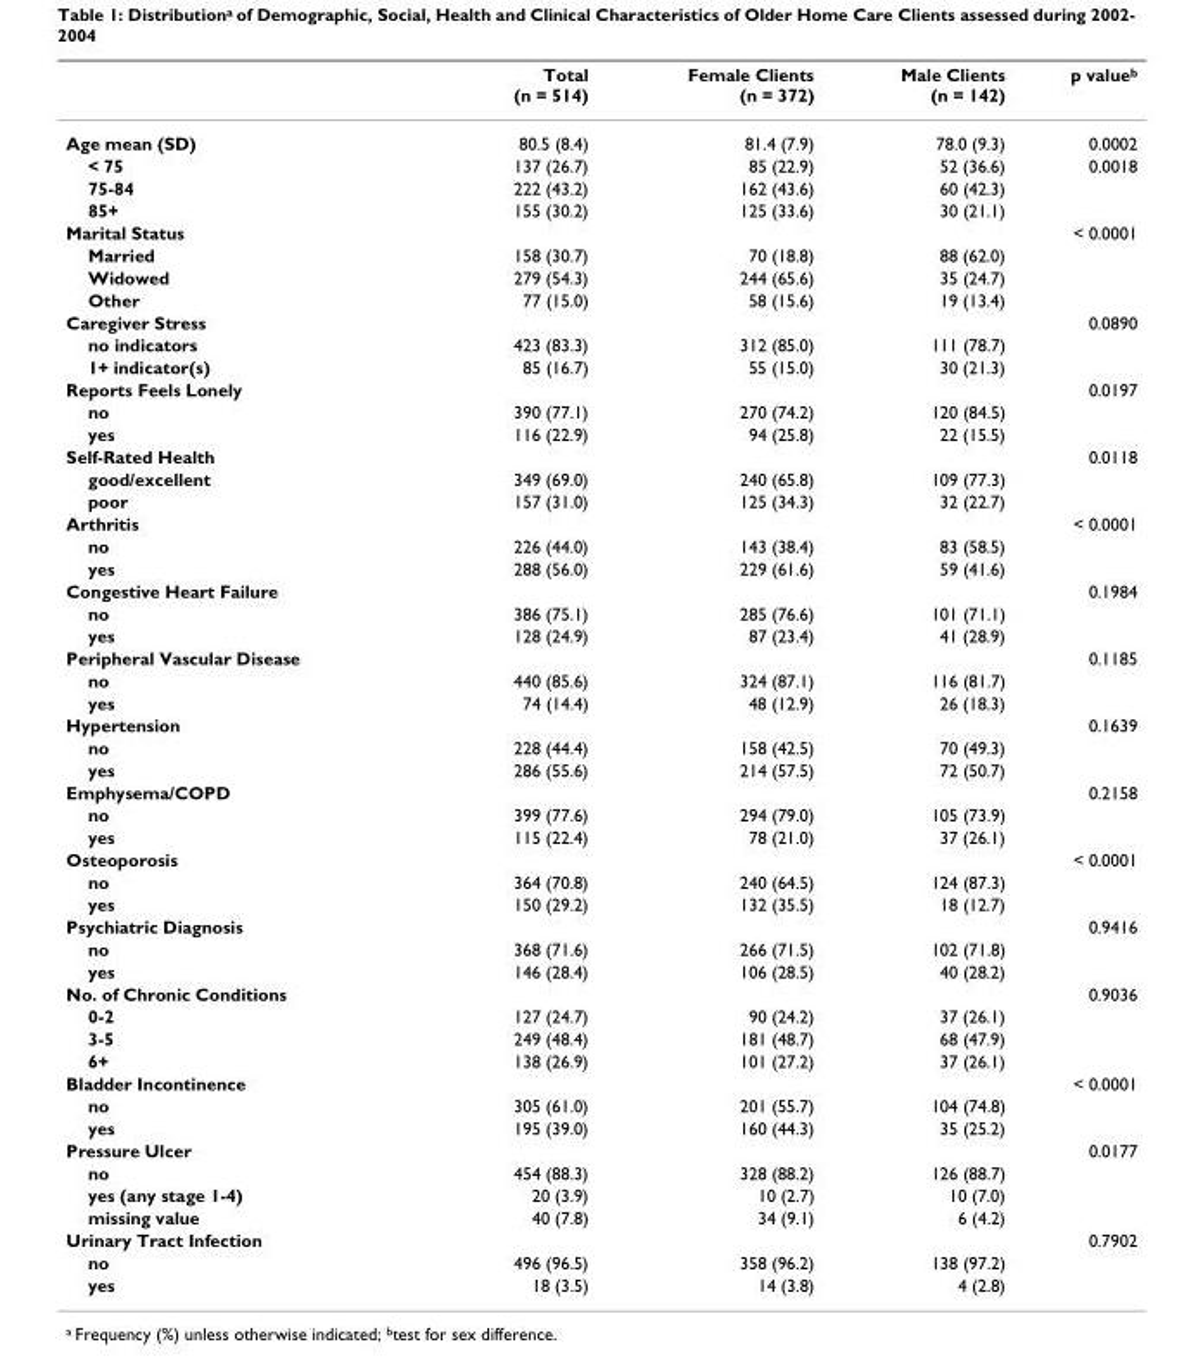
<table><thead><tr><td></td><td>Total (n = 514)</td><td>Female Clients (n = 372)</td><td>Male Clients (n = 142)</td><td>p value<sup>b</sup></td></tr></thead><tbody><tr><td>Age mean (SD)</td><td>80.5 (8.4)</td><td>81.4 (7.9)</td><td>78.0 (9.3)</td><td>0.0002</td></tr><tr><td>&lt; 75</td><td>137 (26.7)</td><td>85 (22.9)</td><td>52 (36.6)</td><td>0.0018</td></tr><tr><td>75-84</td><td>222 (43.2)</td><td>162 (43.6)</td><td>60 (42.3)</td><td></td></tr><tr><td>85+</td><td>155 (30.2)</td><td>125 (33.6)</td><td>30 (21.1)</td><td></td></tr><tr><td>Marital Status</td><td></td><td></td><td></td><td>&lt; 0.0001</td></tr><tr><td>Married</td><td>158 (30.7)</td><td>70 (18.8)</td><td>88 (62.0)</td><td></td></tr><tr><td>Widowed</td><td>279 (54.3)</td><td>244 (65.6)</td><td>35 (24.7)</td><td></td></tr><tr><td>Other</td><td>77 (15.0)</td><td>58 (15.6)</td><td>19 (13.4)</td><td></td></tr><tr><td>Caregiver Stress</td><td></td><td></td><td></td><td>0.0890</td></tr><tr><td>no indicators</td><td>423 (83.3)</td><td>312 (85.0)</td><td>111 (78.7)</td><td></td></tr><tr><td>1+ indicator(s)</td><td>85 (16.7)</td><td>55 (15.0)</td><td>30 (21.3)</td><td></td></tr><tr><td>Reports Feels Lonely</td><td></td><td></td><td></td><td>0.0197</td></tr><tr><td>no</td><td>390 (77.1)</td><td>270 (74.2)</td><td>120 (84.5)</td><td></td></tr><tr><td>yes</td><td>116 (22.9)</td><td>94 (25.8)</td><td>22 (15.5)</td><td></td></tr><tr><td>Self-Rated Health</td><td></td><td></td><td></td><td>0.0118</td></tr><tr><td>good/excellent</td><td>349 (69.0)</td><td>240 (65.8)</td><td>109 (77.3)</td><td></td></tr><tr><td>poor</td><td>157 (31.0)</td><td>125 (34.3)</td><td>32 (22.7)</td><td></td></tr><tr><td>Arthritis</td><td></td><td></td><td></td><td>&lt; 0.0001</td></tr><tr><td>no</td><td>226 (44.0)</td><td>143 (38.4)</td><td>83 (58.5)</td><td></td></tr><tr><td>yes</td><td>288 (56.0)</td><td>229 (61.6)</td><td>59 (41.6)</td><td></td></tr><tr><td>Congestive Heart Failure</td><td></td><td></td><td></td><td>0.1984</td></tr><tr><td>no</td><td>386 (75.1)</td><td>285 (76.6)</td><td>101 (71.1)</td><td></td></tr><tr><td>yes</td><td>128 (24.9)</td><td>87 (23.4)</td><td>41 (28.9)</td><td></td></tr><tr><td>Peripheral Vascular Disease</td><td></td><td></td><td></td><td>0.1185</td></tr><tr><td>no</td><td>440 (85.6)</td><td>324 (87.1)</td><td>116 (81.7)</td><td></td></tr><tr><td>yes</td><td>74 (14.4)</td><td>48 (12.9)</td><td>26 (18.3)</td><td></td></tr><tr><td>Hypertension</td><td></td><td></td><td></td><td>0.1639</td></tr><tr><td>no</td><td>228 (44.4)</td><td>158 (42.5)</td><td>70 (49.3)</td><td></td></tr><tr><td>yes</td><td>286 (55.6)</td><td>214 (57.5)</td><td>72 (50.7)</td><td></td></tr><tr><td>Emphysema/COPD</td><td></td><td></td><td></td><td>0.2158</td></tr><tr><td>no</td><td>399 (77.6)</td><td>294 (79.0)</td><td>105 (73.9)</td><td></td></tr><tr><td>yes</td><td>115 (22.4)</td><td>78 (21.0)</td><td>37 (26.1)</td><td></td></tr><tr><td>Osteoporosis</td><td></td><td></td><td></td><td>&lt; 0.0001</td></tr><tr><td>no</td><td>364 (70.8)</td><td>240 (64.5)</td><td>124 (87.3)</td><td></td></tr><tr><td>yes</td><td>150 (29.2)</td><td>132 (35.5)</td><td>18 (12.7)</td><td></td></tr><tr><td>Psychiatric Diagnosis</td><td></td><td></td><td></td><td>0.9416</td></tr><tr><td>no</td><td>368 (71.6)</td><td>266 (71.5)</td><td>102 (71.8)</td><td></td></tr><tr><td>yes</td><td>146 (28.4)</td><td>106 (28.5)</td><td>40 (28.2)</td><td></td></tr><tr><td>No. of Chronic Conditions</td><td></td><td></td><td></td><td>0.9036</td></tr><tr><td>0-2</td><td>127 (24.7)</td><td>90 (24.2)</td><td>37 (26.1)</td><td></td></tr><tr><td>3-5</td><td>249 (48.4)</td><td>181 (48.7)</td><td>68 (47.9)</td><td></td></tr><tr><td>6+</td><td>138 (26.9)</td><td>101 (27.2)</td><td>37 (26.1)</td><td></td></tr><tr><td>Bladder Incontinence</td><td></td><td></td><td></td><td>&lt; 0.0001</td></tr><tr><td>no</td><td>305 (61.0)</td><td>201 (55.7)</td><td>104 (74.8)</td><td></td></tr><tr><td>yes</td><td>195 (39.0)</td><td>160 (44.3)</td><td>35 (25.2)</td><td></td></tr><tr><td>Pressure Ulcer</td><td></td><td></td><td></td><td>0.0177</td></tr><tr><td>no</td><td>454 (88.3)</td><td>328 (88.2)</td><td>126 (88.7)</td><td></td></tr><tr><td>yes (any stage 1-4)</td><td>20 (3.9)</td><td>10 (2.7)</td><td>10 (7.0)</td><td></td></tr><tr><td>missing value</td><td>40 (7.8)</td><td>34 (9.1)</td><td>6 (4.2)</td><td></td></tr><tr><td>Urinary Tract Infection</td><td></td><td></td><td></td><td>0.7902</td></tr><tr><td>no</td><td>496 (96.5)</td><td>358 (96.2)</td><td>138 (97.2)</td><td></td></tr><tr><td>yes</td><td>18 (3.5)</td><td>14 (3.8)</td><td>4 (2.8)</td><td></td></tr></tbody></table>